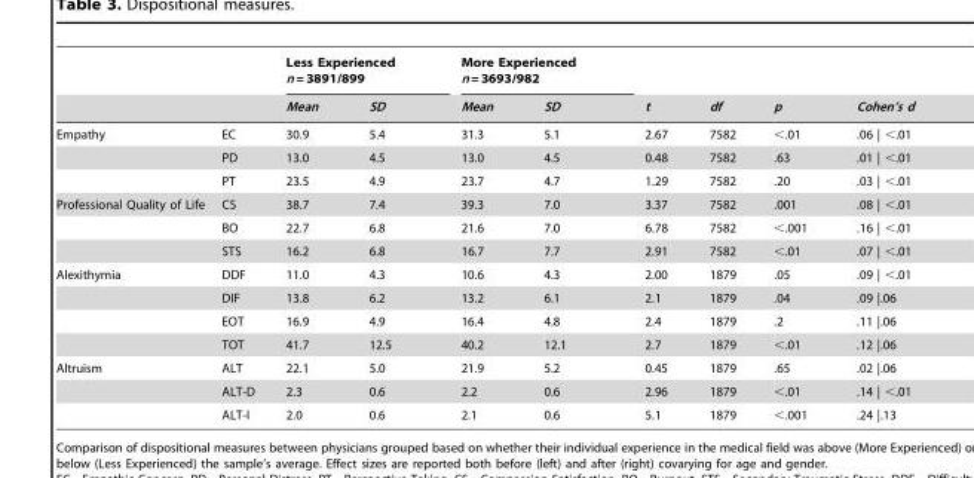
<table><thead><tr><td rowspan="2"></td><td rowspan="2"></td><td colspan="2">Less Experienced n = 3891/899</td><td colspan="2">More Experienced n = 3693/982</td><td rowspan="2">t</td><td rowspan="2">df</td><td rowspan="2">p</td><td rowspan="2">Cohen’s d</td></tr><tr><td>Mean</td><td>SD</td><td>Mean</td><td>SD</td></tr></thead><tbody><tr><td rowspan="3">Empathy</td><td>EC</td><td>30.9</td><td>5.4</td><td>31.3</td><td>5.1</td><td>2.67</td><td>7582</td><td>&lt;.01</td><td>.06 | &lt;.01</td></tr><tr><td>PD</td><td>13.0</td><td>4.5</td><td>13.0</td><td>4.5</td><td>0.48</td><td>7582</td><td>.63</td><td>.01 | &lt;.01</td></tr><tr><td>PT</td><td>23.5</td><td>4.9</td><td>23.7</td><td>4.7</td><td>1.29</td><td>7582</td><td>.20</td><td>.03 | &lt;.01</td></tr><tr><td rowspan="3">Professional Quality of Life</td><td>CS</td><td>38.7</td><td>7.4</td><td>39.3</td><td>7.0</td><td>3.37</td><td>7582</td><td>.001</td><td>.08 | &lt;.01</td></tr><tr><td>BO</td><td>22.7</td><td>6.8</td><td>21.6</td><td>7.0</td><td>6.78</td><td>7582</td><td>&lt;.001</td><td>.16 | &lt;.01</td></tr><tr><td>STS</td><td>16.2</td><td>6.8</td><td>16.7</td><td>7.7</td><td>2.91</td><td>7582</td><td>&lt;.01</td><td>.07 | &lt;.01</td></tr><tr><td rowspan="4">Alexithymia</td><td>DDF</td><td>11.0</td><td>4.3</td><td>10.6</td><td>4.3</td><td>2.00</td><td>1879</td><td>.05</td><td>.09 | &lt;.01</td></tr><tr><td>DIF</td><td>13.8</td><td>6.2</td><td>13.2</td><td>6.1</td><td>2.1</td><td>1879</td><td>.04</td><td>.09 |.06</td></tr><tr><td>EOT</td><td>16.9</td><td>4.9</td><td>16.4</td><td>4.8</td><td>2.4</td><td>1879</td><td>.2</td><td>.11 |.06</td></tr><tr><td>TOT</td><td>41.7</td><td>12.5</td><td>40.2</td><td>12.1</td><td>2.7</td><td>1879</td><td>&lt;.01</td><td>.12 |.06</td></tr><tr><td rowspan="3">Altruism</td><td>ALT</td><td>22.1</td><td>5.0</td><td>21.9</td><td>5.2</td><td>0.45</td><td>1879</td><td>.65</td><td>.02 |.06</td></tr><tr><td>ALT-D</td><td>2.3</td><td>0.6</td><td>2.2</td><td>0.6</td><td>2.96</td><td>1879</td><td>&lt;.01</td><td>.14 | &lt;.01</td></tr><tr><td>ALT-I</td><td>2.0</td><td>0.6</td><td>2.1</td><td>0.6</td><td>5.1</td><td>1879</td><td>&lt;.001</td><td>.24 |.13</td></tr></tbody></table>